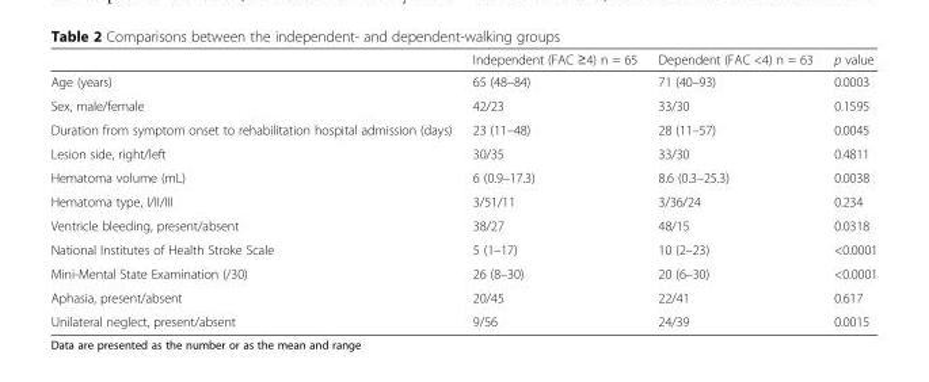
<table><thead><tr><td></td><td>Independent (FAC ≥4) n = 65</td><td>Dependent (FAC &lt;4) n = 63</td><td>p value</td></tr></thead><tbody><tr><td>Age (years)</td><td>65 (48–84)</td><td>71 (40–93)</td><td>0.0003</td></tr><tr><td>Sex, male/female</td><td>42/23</td><td>33/30</td><td>0.1595</td></tr><tr><td>Duration from symptom onset to rehabilitation hospital admission (days)</td><td>23 (11–48)</td><td>28 (11–57)</td><td>0.0045</td></tr><tr><td>Lesion side, right/left</td><td>30/35</td><td>33/30</td><td>0.4811</td></tr><tr><td>Hematoma volume (mL)</td><td>6 (0.9–17.3)</td><td>8.6 (0.3–25.3)</td><td>0.0038</td></tr><tr><td>Hematoma type, I/II/III</td><td>3/51/11</td><td>3/36/24</td><td>0.234</td></tr><tr><td>Ventricle bleeding, present/absent</td><td>38/27</td><td>48/15</td><td>0.0318</td></tr><tr><td>National Institutes of Health Stroke Scale</td><td>5 (1–17)</td><td>10 (2–23)</td><td>&lt;0.0001</td></tr><tr><td>Mini-Mental State Examination (/30)</td><td>26 (8–30)</td><td>20 (6–30)</td><td>&lt;0.0001</td></tr><tr><td>Aphasia, present/absent</td><td>20/45</td><td>22/41</td><td>0.617</td></tr><tr><td>Unilateral neglect, present/absent</td><td>9/56</td><td>24/39</td><td>0.0015</td></tr></tbody></table>